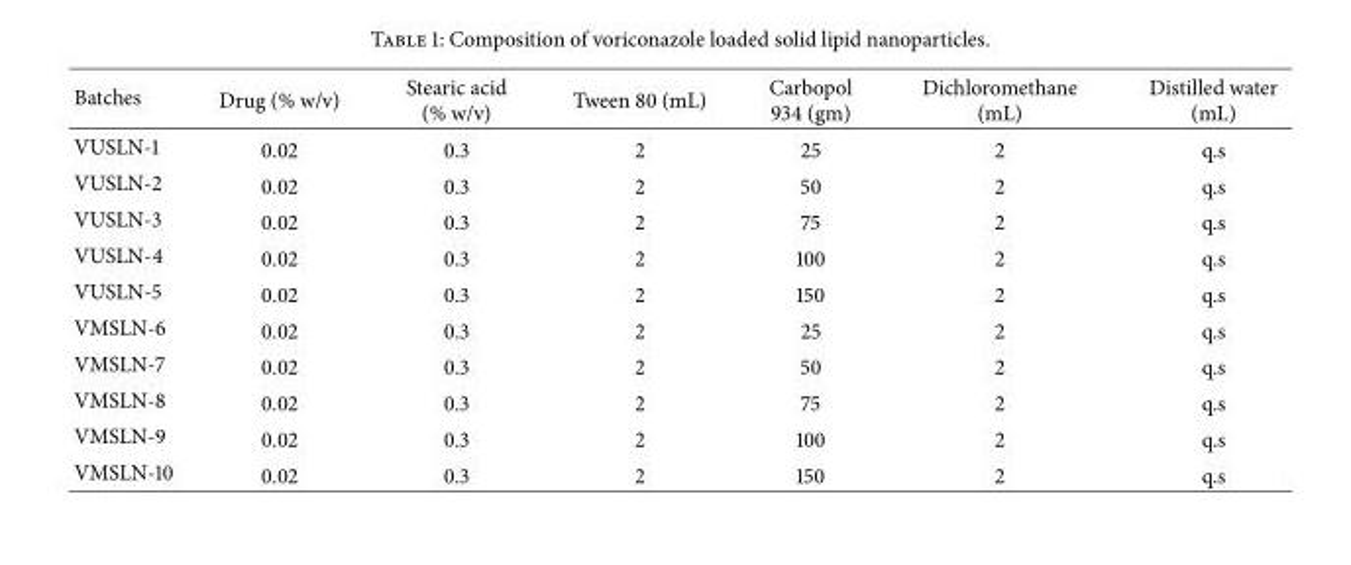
<table><thead><tr><td>Batches</td><td>Drug (% w/v)</td><td>Stearic acid (% w/v)</td><td>Tween 80 (mL)</td><td>Carbopol 934 (gm)</td><td>Dichloromethane (mL)</td><td>Distilled water (mL)</td></tr></thead><tbody><tr><td>VUSLN-1</td><td>0.02</td><td>0.3</td><td>2</td><td>25</td><td>2</td><td>q.s</td></tr><tr><td>VUSLN-2</td><td>0.02</td><td>0.3</td><td>2</td><td>50</td><td>2</td><td>q.s</td></tr><tr><td>VUSLN-3</td><td>0.02</td><td>0.3</td><td>2</td><td>75</td><td>2</td><td>q.s</td></tr><tr><td>VUSLN-4</td><td>0.02</td><td>0.3</td><td>2</td><td>100</td><td>2</td><td>q.s</td></tr><tr><td>VUSLN-5</td><td>0.02</td><td>0.3</td><td>2</td><td>150</td><td>2</td><td>q.s</td></tr><tr><td>VMSLN-6</td><td>0.02</td><td>0.3</td><td>2</td><td>25</td><td>2</td><td>q.s</td></tr><tr><td>VMSLN-7</td><td>0.02</td><td>0.3</td><td>2</td><td>50</td><td>2</td><td>q.s</td></tr><tr><td>VMSLN-8</td><td>0.02</td><td>0.3</td><td>2</td><td>75</td><td>2</td><td>q.s</td></tr><tr><td>VMSLN-9</td><td>0.02</td><td>0.3</td><td>2</td><td>100</td><td>2</td><td>q.s</td></tr><tr><td>VMSLN-10</td><td>0.02</td><td>0.3</td><td>2</td><td>150</td><td>2</td><td>q.s</td></tr></tbody></table>